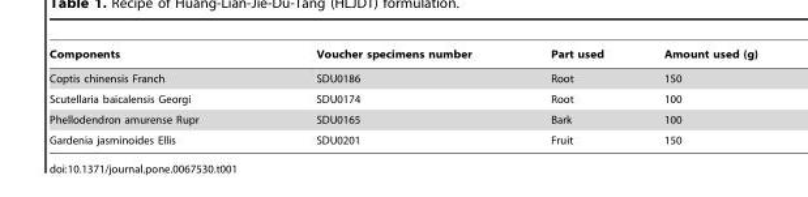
<table><thead><tr><td>Components</td><td>Voucher specimens number</td><td>Part used</td><td>Amount used (g)</td></tr></thead><tbody><tr><td>Coptis chinensis Franch</td><td>SDU0186</td><td>Root</td><td>150</td></tr><tr><td>Scutellaria baicalensis Georgi</td><td>SDU0174</td><td>Root</td><td>100</td></tr><tr><td>Phellodendron amurense Rupr</td><td>SDU0165</td><td>Bark</td><td>100</td></tr><tr><td>Gardenia jasminoides Ellis</td><td>SDU0201</td><td>Fruit</td><td>150</td></tr></tbody></table>